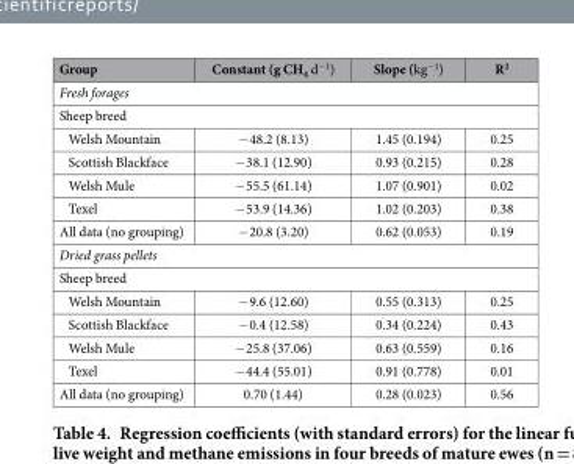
<table><thead><tr><td>Group</td><td>Constant (g CH<sub>4</sub> d<sup>−1</sup>)</td><td>Slope (kg<sup>−1</sup>)</td><td>R<sup>2</sup></td></tr></thead><tbody><tr><td colspan="4">Fresh forages</td></tr><tr><td colspan="4">Sheep breed</td></tr><tr><td>Welsh Mountain</td><td>− 48.2 (8.13)</td><td>1.45 (0.194)</td><td>0.25</td></tr><tr><td>Scottish Blackface</td><td>− 38.1 (12.90)</td><td>0.93 (0.215)</td><td>0.28</td></tr><tr><td>Welsh Mule</td><td>− 55.5 (61.14)</td><td>1.07 (0.901)</td><td>0.02</td></tr><tr><td>Texel</td><td>− 53.9 (14.36)</td><td>1.02 (0.203)</td><td>0.38</td></tr><tr><td>All data (no grouping)</td><td>− 20.8 (3.20)</td><td>0.62 (0.053)</td><td>0.19</td></tr><tr><td colspan="4">Dried grass pellets</td></tr><tr><td colspan="4">Sheep breed</td></tr><tr><td>Welsh Mountain</td><td>− 9.6 (12.60)</td><td>0.55 (0.313)</td><td>0.25</td></tr><tr><td>Scottish Blackface</td><td>− 0.4 (12.58)</td><td>0.34 (0.224)</td><td>0.43</td></tr><tr><td>Welsh Mule</td><td>− 25.8 (37.06)</td><td>0.63 (0.559)</td><td>0.16</td></tr><tr><td>Texel</td><td>− 44.4 (55.01)</td><td>0.91 (0.778)</td><td>0.01</td></tr><tr><td>All data (no grouping)</td><td>0.70 (1.44)</td><td>0.28 (0.023)</td><td>0.56</td></tr></tbody></table>